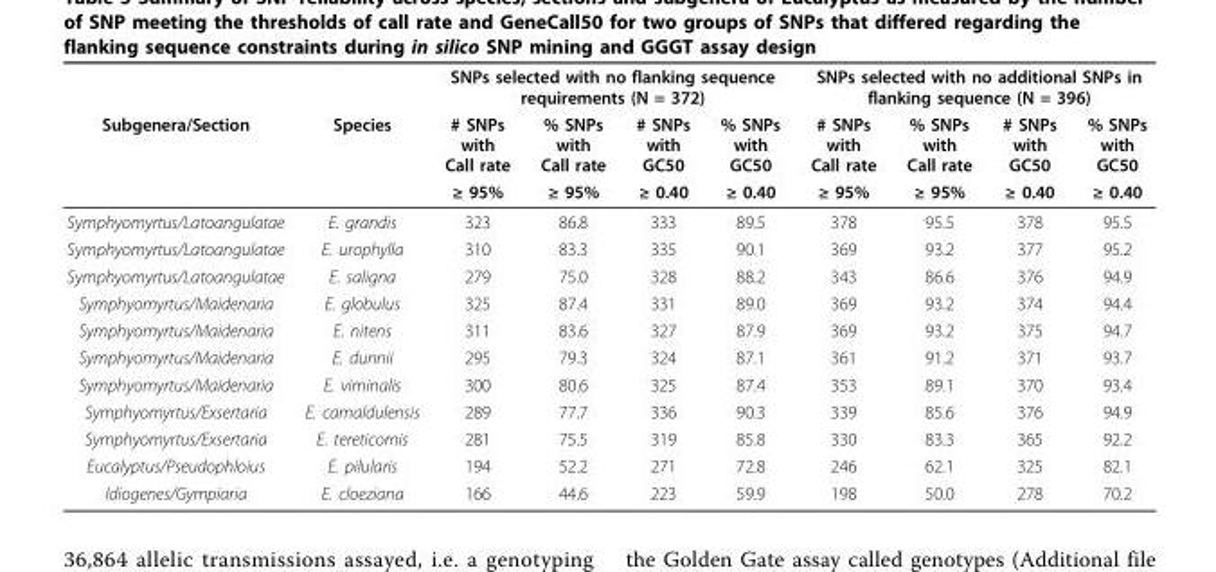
<table><thead><tr><td rowspan="3">Subgenera/Section</td><td rowspan="3">Species</td><td colspan="4">SNPs selected with no flanking sequence requirements (N = 372)</td><td colspan="4">SNPs selected with no additional SNPs in flanking sequence (N = 396)</td></tr><tr><td rowspan="2"># SNPs with Call rate ≥ 95%</td><td rowspan="2">% SNPs with Call rate ≥ 95%</td><td rowspan="2"># SNPs with GC50 ≥ 0.40</td><td rowspan="2">% SNPs with GC50 ≥ 0.40</td><td rowspan="2"># SNPs with Call rate ≥ 95%</td><td rowspan="2">% SNPs with Call rate ≥ 95%</td><td rowspan="2"># SNPs with GC50 ≥ 0.40</td><td rowspan="2">% SNPs with GC50 ≥ 0.40</td></tr><tr></tr></thead><tbody><tr><td>Symphyomyrtus/Latoangulatae</td><td>E. grandis</td><td>323</td><td>86.8</td><td>333</td><td>89.5</td><td>378</td><td>95.5</td><td>378</td><td>95.5</td></tr><tr><td>Symphyomyrtus/Latoangulatae</td><td>E. urophylla</td><td>310</td><td>83.3</td><td>335</td><td>90.1</td><td>369</td><td>93.2</td><td>377</td><td>95.2</td></tr><tr><td>Symphyomyrtus/Latoangulatae</td><td>E. saligna</td><td>279</td><td>75.0</td><td>328</td><td>88.2</td><td>343</td><td>86.6</td><td>376</td><td>94.9</td></tr><tr><td>Symphyomyrtus/Maidenaria</td><td>E. globulus</td><td>325</td><td>87.4</td><td>331</td><td>89.0</td><td>369</td><td>93.2</td><td>374</td><td>94.4</td></tr><tr><td>Symphyomyrtus/Maidenaria</td><td>E. nitens</td><td>311</td><td>83.6</td><td>327</td><td>87.9</td><td>369</td><td>93.2</td><td>375</td><td>94.7</td></tr><tr><td>Symphyomyrtus/Maidenaria</td><td>E. dunnii</td><td>295</td><td>79.3</td><td>324</td><td>87.1</td><td>361</td><td>91.2</td><td>371</td><td>93.7</td></tr><tr><td>Symphyomyrtus/Maidenaria</td><td>E. viminalis</td><td>300</td><td>80.6</td><td>325</td><td>87.4</td><td>353</td><td>89.1</td><td>370</td><td>93.4</td></tr><tr><td>Symphyomyrtus/Exsertaria</td><td>E. camaldulensis</td><td>289</td><td>77.7</td><td>336</td><td>90.3</td><td>339</td><td>85.6</td><td>376</td><td>94.9</td></tr><tr><td>Symphyomyrtus/Exsertaria</td><td>E. tereticornis</td><td>281</td><td>75.5</td><td>319</td><td>85.8</td><td>330</td><td>83.3</td><td>365</td><td>92.2</td></tr><tr><td>Eucalyptus/Pseudophloius</td><td>E. pilularis</td><td>194</td><td>52.2</td><td>271</td><td>72.8</td><td>246</td><td>62.1</td><td>325</td><td>82.1</td></tr><tr><td>Idiogenes/Gympiaria</td><td>E. cloeziana</td><td>166</td><td>44.6</td><td>223</td><td>59.9</td><td>198</td><td>50.0</td><td>278</td><td>70.2</td></tr></tbody></table>